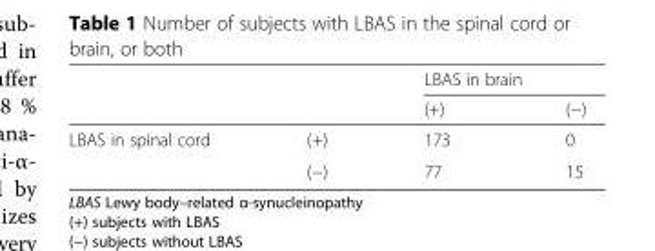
<table><thead><tr><td rowspan="2"></td><td rowspan="2"></td><td colspan="2">LBAS in brain</td></tr><tr><td>(+)</td><td>(−)</td></tr></thead><tbody><tr><td rowspan="2">LBAS in spinal cord</td><td>(+)</td><td>173</td><td>0</td></tr><tr><td>(−)</td><td>77</td><td>15</td></tr></tbody></table>